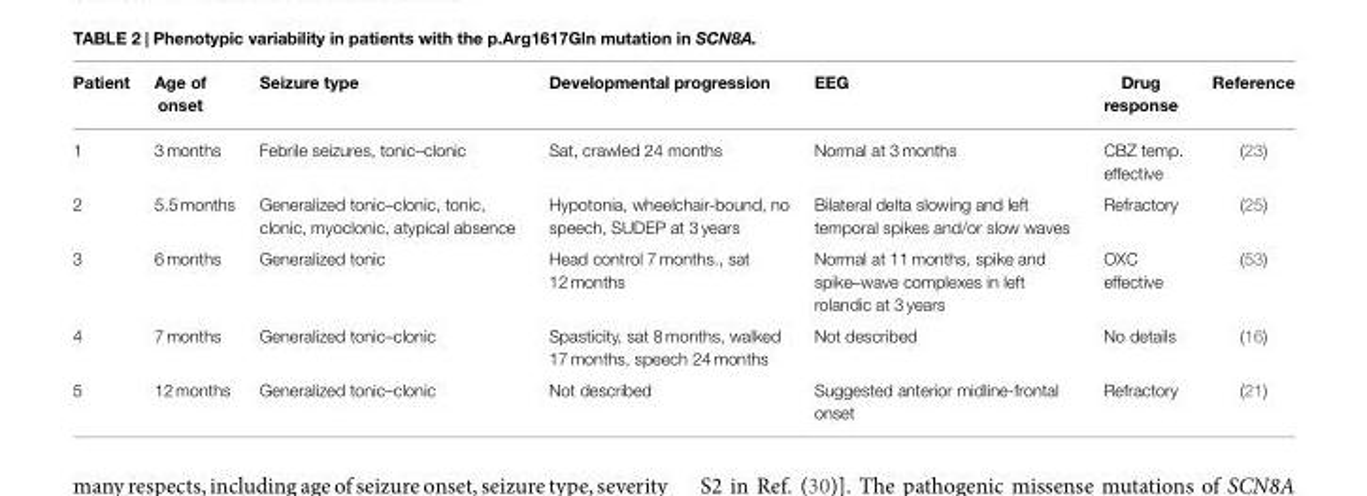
<table><thead><tr><td>Patient</td><td>Age of onset</td><td>Seizure type</td><td>Developmental progression</td><td>EEG</td><td>Drug response</td><td>Reference</td></tr></thead><tbody><tr><td>1</td><td>3 months</td><td>Febrile seizures, tonic–clonic</td><td>Sat, crawled 24 months</td><td>Normal at 3 months</td><td>CBZ temp. effective</td><td>(23)</td></tr><tr><td>2</td><td>5.5 months</td><td>Generalized tonic–clonic, tonic, clonic, myoclonic, atypical absence</td><td>Hypotonia, wheelchair-bound, no speech, SUDEP at 3 years</td><td>Bilateral delta slowing and left temporal spikes and/or slow waves</td><td>Refractory</td><td>(25)</td></tr><tr><td>3</td><td>6 months</td><td>Generalized tonic</td><td>Head control 7 months., sat 12 months</td><td>Normal at 11 months, spike and spike–wave complexes in left rolandic at 3 years</td><td>OXC effective</td><td>(53)</td></tr><tr><td>4</td><td>7 months</td><td>Generalized tonic–clonic</td><td>Spasticity, sat 8 months, walked 17 months, speech 24 months</td><td>Not described</td><td>No details</td><td>(16)</td></tr><tr><td>5</td><td>12 months</td><td>Generalized tonic–clonic</td><td>Not described</td><td>Suggested anterior midline-frontal onset</td><td>Refractory</td><td>(21)</td></tr></tbody></table>